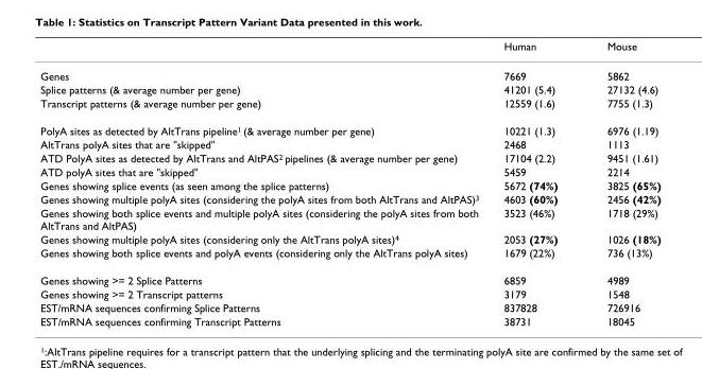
<table><thead><tr><td></td><td>Human</td><td>Mouse</td></tr></thead><tbody><tr><td>Genes</td><td>7669</td><td>5862</td></tr><tr><td>Splice patterns (&amp; average number per gene)</td><td>41201 (5.4)</td><td>27132 (4.6)</td></tr><tr><td>Transcript patterns (&amp; average number per gene)</td><td>12559 (1.6)</td><td>7755 (1.3)</td></tr><tr><td>PolyA sites as detected by AltTrans pipeline1 (&amp; average number per gene)</td><td>10221 (1.3)</td><td>6976 (1.19)</td></tr><tr><td>AltTrans polyA sites that are &quot;skipped&quot;</td><td>2468</td><td>1113</td></tr><tr><td>ATD PolyA sites as detected by AltTrans and AltPAS2 pipelines (&amp; average number per gene)</td><td>17104 (2.2)</td><td>9451 (1.61)</td></tr><tr><td>ATD polyA sites that are &quot;skipped&quot;</td><td>5459</td><td>2214</td></tr><tr><td>Genes showing splice events (as seen among the splice patterns)</td><td>5672 (74%)</td><td>3825 (65%)</td></tr><tr><td>Genes showing multiple polyA sites (considering the polyA sites from both AltTrans and AltPAS)3</td><td>4603 (60%)</td><td>2456 (42%)</td></tr><tr><td>Genes showing both splice events and multiple polyA sites (considering the polyA sites from both AltTrans and AltPAS)</td><td>3523 (46%)</td><td>1718 (29%)</td></tr><tr><td>Genes showing multiple polyA sites (considering only the AltTrans polyA sites)4</td><td>2053 (27%)</td><td>1026 (18%)</td></tr><tr><td>Genes showing both splice events and polyA events (considering only the AltTrans polyA sites)</td><td>1679 (22%)</td><td>736 (13%)</td></tr><tr><td>Genes showing &gt;= 2 Splice Patterns</td><td>6859</td><td>4989</td></tr><tr><td>Genes showing &gt;= 2 Transcript patterns</td><td>3179</td><td>1548</td></tr><tr><td>EST/mRNA sequences confirming Splice Patterns</td><td>837828</td><td>726916</td></tr><tr><td>EST/mRNA sequences confirming Transcript Patterns</td><td>38731</td><td>18045</td></tr></tbody></table>